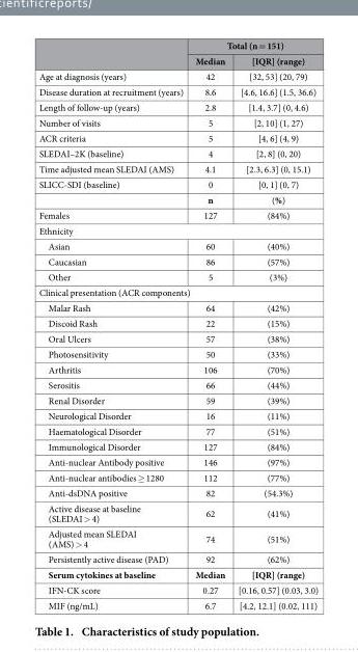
<table><thead><tr><td rowspan="2"></td><td colspan="2">Total (n = 151)</td></tr><tr><td>Median</td><td>[IQR] (range)</td></tr></thead><tbody><tr><td>Age at diagnosis (years)</td><td>42</td><td>[32, 53] (20, 79)</td></tr><tr><td>Disease duration at recruitment (years)</td><td>8.6</td><td>[4.6, 16.6] (1.5, 36.6)</td></tr><tr><td>Length of follow-up (years)</td><td>2.8</td><td>[1.4, 3.7] (0, 4.6)</td></tr><tr><td>Number of visits</td><td>5</td><td>[2, 10] (1, 27)</td></tr><tr><td>ACR criteria</td><td>5</td><td>[4, 6] (4, 9)</td></tr><tr><td>SLEDAI–2K (baseline)</td><td>4</td><td>[2, 8] (0, 20)</td></tr><tr><td>Time adjusted mean SLEDAI (AMS)</td><td>4.1</td><td>[2.3, 6.3] (0, 15.1)</td></tr><tr><td rowspan="2">SLICC-SDI (baseline)</td><td>0</td><td>[0, 1] (0, 7)</td></tr><tr><td>n</td><td>(%)</td></tr><tr><td>Females</td><td>127</td><td>(84%)</td></tr><tr><td colspan="3">Ethnicity</td></tr><tr><td>Asian</td><td>60</td><td>(40%)</td></tr><tr><td>Caucasian</td><td>86</td><td>(57%)</td></tr><tr><td>Other</td><td>5</td><td>(3%)</td></tr><tr><td colspan="3">Clinical presentation (ACR components)</td></tr><tr><td>Malar Rash</td><td>64</td><td>(42%)</td></tr><tr><td>Discoid Rash</td><td>22</td><td>(15%)</td></tr><tr><td>Oral Ulcers</td><td>57</td><td>(38%)</td></tr><tr><td>Photosensitivity</td><td>50</td><td>(33%)</td></tr><tr><td>Arthritis</td><td>106</td><td>(70%)</td></tr><tr><td>Serositis</td><td>66</td><td>(44%)</td></tr><tr><td>Renal Disorder</td><td>59</td><td>(39%)</td></tr><tr><td>Neurological Disorder</td><td>16</td><td>(11%)</td></tr><tr><td>Haematological Disorder</td><td>77</td><td>(51%)</td></tr><tr><td>Immunological Disorder</td><td>127</td><td>(84%)</td></tr><tr><td>Anti-nuclear Antibody positive</td><td>146</td><td>(97%)</td></tr><tr><td>Anti-nuclear antibodies ≥ 1280</td><td>112</td><td>(77%)</td></tr><tr><td>Anti-dsDNA positive</td><td>82</td><td>(54.3%)</td></tr><tr><td>Active disease at baseline (SLEDAI &gt; 4)</td><td>62</td><td>(41%)</td></tr><tr><td>Adjusted mean SLEDAI (AMS) &gt; 4</td><td>74</td><td>(51%)</td></tr><tr><td>Persistently active disease (PAD)</td><td>92</td><td>(62%)</td></tr><tr><td>Serum cytokines at baseline</td><td>Median</td><td>[IQR] (range)</td></tr><tr><td>IFN-CK score</td><td>0.27</td><td>[0.16, 0.57] (0.03, 3.0)</td></tr><tr><td>MIF (ng/mL)</td><td>6.7</td><td>[4.2, 12.1] (0.02, 111)</td></tr></tbody></table>